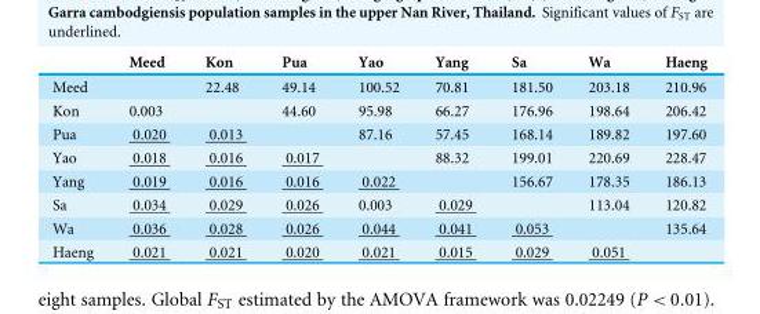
<table><thead><tr><td></td><td>Meed</td><td>Kon</td><td>Pua</td><td>Yao</td><td>Yang</td><td>Sa</td><td>Wa</td><td>Haeng</td></tr></thead><tbody><tr><td>Meed</td><td></td><td>22.48</td><td>49.14</td><td>100.52</td><td>70.81</td><td>181.50</td><td>203.18</td><td>210.96</td></tr><tr><td>Kon</td><td>0.003</td><td></td><td>44.60</td><td>95.98</td><td>66.27</td><td>176.96</td><td>198.64</td><td>206.42</td></tr><tr><td>Pua</td><td>0.020</td><td>0.013</td><td></td><td>87.16</td><td>57.45</td><td>168.14</td><td>189.82</td><td>197.60</td></tr><tr><td>Yao</td><td>0.018</td><td>0.016</td><td>0.017</td><td></td><td>88.32</td><td>199.01</td><td>220.69</td><td>228.47</td></tr><tr><td>Yang</td><td>0.019</td><td>0.016</td><td>0.016</td><td>0.022</td><td></td><td>156.67</td><td>178.35</td><td>186.13</td></tr><tr><td>Sa</td><td>0.034</td><td>0.029</td><td>0.026</td><td>0.003</td><td>0.029</td><td></td><td>113.04</td><td>120.82</td></tr><tr><td>Wa</td><td>0.036</td><td>0.028</td><td>0.026</td><td>0.044</td><td>0.041</td><td>0.053</td><td></td><td>135.64</td></tr><tr><td>Haeng</td><td>0.021</td><td>0.021</td><td>0.020</td><td>0.021</td><td>0.015</td><td>0.029</td><td>0.051</td><td></td></tr></tbody></table>